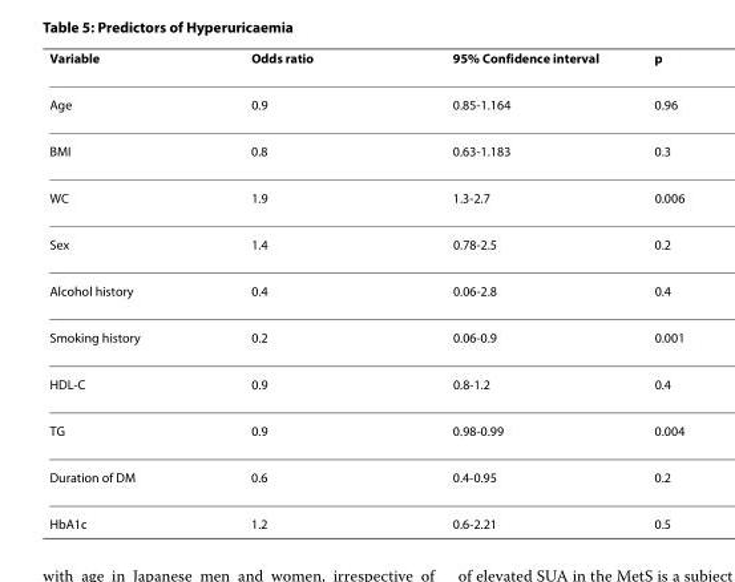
<table><thead><tr><td>Variable</td><td>Odds ratio</td><td>95% Confidence interval</td><td>p</td></tr></thead><tbody><tr><td>Age</td><td>0.9</td><td>0.85-1.164</td><td>0.96</td></tr><tr><td>BMI</td><td>0.8</td><td>0.63-1.183</td><td>0.3</td></tr><tr><td>WC</td><td>1.9</td><td>1.3-2.7</td><td>0.006</td></tr><tr><td>Sex</td><td>1.4</td><td>0.78-2.5</td><td>0.2</td></tr><tr><td>Alcohol history</td><td>0.4</td><td>0.06-2.8</td><td>0.4</td></tr><tr><td>Smoking history</td><td>0.2</td><td>0.06-0.9</td><td>0.001</td></tr><tr><td>HDL-C</td><td>0.9</td><td>0.8-1.2</td><td>0.4</td></tr><tr><td>TG</td><td>0.9</td><td>0.98-0.99</td><td>0.004</td></tr><tr><td>Duration of DM</td><td>0.6</td><td>0.4-0.95</td><td>0.2</td></tr><tr><td>HbA1c</td><td>1.2</td><td>0.6-2.21</td><td>0.5</td></tr></tbody></table>